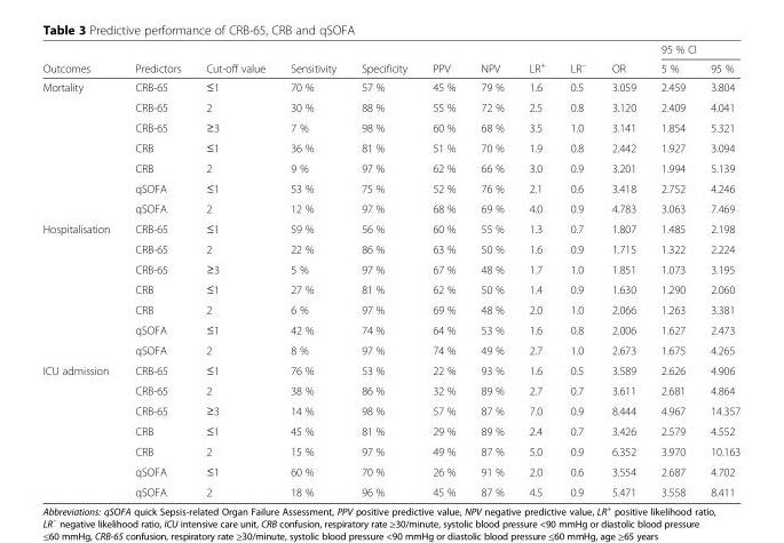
<table><thead><tr><td rowspan="2">Outcomes</td><td rowspan="2">Predictors</td><td rowspan="2">Cut-off value</td><td rowspan="2">Sensitivity</td><td rowspan="2">Specificity</td><td rowspan="2">PPV</td><td rowspan="2">NPV</td><td rowspan="2">LR<sup>+</sup></td><td rowspan="2">LR<sup>−</sup></td><td rowspan="2">OR</td><td colspan="2">95 % CI</td></tr><tr><td>5 %</td><td>95 %</td></tr></thead><tbody><tr><td rowspan="7">Mortality</td><td>CRB-65</td><td>≤1</td><td>70 %</td><td>57 %</td><td>45 %</td><td>79 %</td><td>1.6</td><td>0.5</td><td>3.059</td><td>2.459</td><td>3.804</td></tr><tr><td>CRB-65</td><td>2</td><td>30 %</td><td>88 %</td><td>55 %</td><td>72 %</td><td>2.5</td><td>0.8</td><td>3.120</td><td>2.409</td><td>4.041</td></tr><tr><td>CRB-65</td><td>≥3</td><td>7 %</td><td>98 %</td><td>60 %</td><td>68 %</td><td>3.5</td><td>1.0</td><td>3.141</td><td>1.854</td><td>5.321</td></tr><tr><td>CRB</td><td>≤1</td><td>36 %</td><td>81 %</td><td>51 %</td><td>70 %</td><td>1.9</td><td>0.8</td><td>2.442</td><td>1.927</td><td>3.094</td></tr><tr><td>CRB</td><td>2</td><td>9 %</td><td>97 %</td><td>62 %</td><td>66 %</td><td>3.0</td><td>0.9</td><td>3.201</td><td>1.994</td><td>5.139</td></tr><tr><td>qSOFA</td><td>≤1</td><td>53 %</td><td>75 %</td><td>52 %</td><td>76 %</td><td>2.1</td><td>0.6</td><td>3.418</td><td>2.752</td><td>4.246</td></tr><tr><td>qSOFA</td><td>2</td><td>12 %</td><td>97 %</td><td>68 %</td><td>69 %</td><td>4.0</td><td>0.9</td><td>4.783</td><td>3.063</td><td>7.469</td></tr><tr><td rowspan="7">Hospitalisation</td><td>CRB-65</td><td>≤1</td><td>59 %</td><td>56 %</td><td>60 %</td><td>55 %</td><td>1.3</td><td>0.7</td><td>1.807</td><td>1.485</td><td>2.198</td></tr><tr><td>CRB-65</td><td>2</td><td>22 %</td><td>86 %</td><td>63 %</td><td>50 %</td><td>1.6</td><td>0.9</td><td>1.715</td><td>1.322</td><td>2.224</td></tr><tr><td>CRB-65</td><td>≥3</td><td>5 %</td><td>97 %</td><td>67 %</td><td>48 %</td><td>1.7</td><td>1.0</td><td>1.851</td><td>1.073</td><td>3.195</td></tr><tr><td>CRB</td><td>≤1</td><td>27 %</td><td>81 %</td><td>62 %</td><td>50 %</td><td>1.4</td><td>0.9</td><td>1.630</td><td>1.290</td><td>2.060</td></tr><tr><td>CRB</td><td>2</td><td>6 %</td><td>97 %</td><td>69 %</td><td>48 %</td><td>2.0</td><td>1.0</td><td>2.066</td><td>1.263</td><td>3.381</td></tr><tr><td>qSOFA</td><td>≤1</td><td>42 %</td><td>74 %</td><td>64 %</td><td>53 %</td><td>1.6</td><td>0.8</td><td>2.006</td><td>1.627</td><td>2.473</td></tr><tr><td>qSOFA</td><td>2</td><td>8 %</td><td>97 %</td><td>74 %</td><td>49 %</td><td>2.7</td><td>1.0</td><td>2.673</td><td>1.675</td><td>4.265</td></tr><tr><td rowspan="7">ICU admission</td><td>CRB-65</td><td>≤1</td><td>76 %</td><td>53 %</td><td>22 %</td><td>93 %</td><td>1.6</td><td>0.5</td><td>3.589</td><td>2.626</td><td>4.906</td></tr><tr><td>CRB-65</td><td>2</td><td>38 %</td><td>86 %</td><td>32 %</td><td>89 %</td><td>2.7</td><td>0.7</td><td>3.611</td><td>2.681</td><td>4.864</td></tr><tr><td>CRB-65</td><td>≥3</td><td>14 %</td><td>98 %</td><td>57 %</td><td>87 %</td><td>7.0</td><td>0.9</td><td>8.444</td><td>4.967</td><td>14.357</td></tr><tr><td>CRB</td><td>≤1</td><td>45 %</td><td>81 %</td><td>29 %</td><td>89 %</td><td>2.4</td><td>0.7</td><td>3.426</td><td>2.579</td><td>4.552</td></tr><tr><td>CRB</td><td>2</td><td>15 %</td><td>97 %</td><td>49 %</td><td>87 %</td><td>5.0</td><td>0.9</td><td>6.352</td><td>3.970</td><td>10.163</td></tr><tr><td>qSOFA</td><td>≤1</td><td>60 %</td><td>70 %</td><td>26 %</td><td>91 %</td><td>2.0</td><td>0.6</td><td>3.554</td><td>2.687</td><td>4.702</td></tr><tr><td>qSOFA</td><td>2</td><td>18 %</td><td>96 %</td><td>45 %</td><td>87 %</td><td>4.5</td><td>0.9</td><td>5.471</td><td>3.558</td><td>8.411</td></tr></tbody></table>